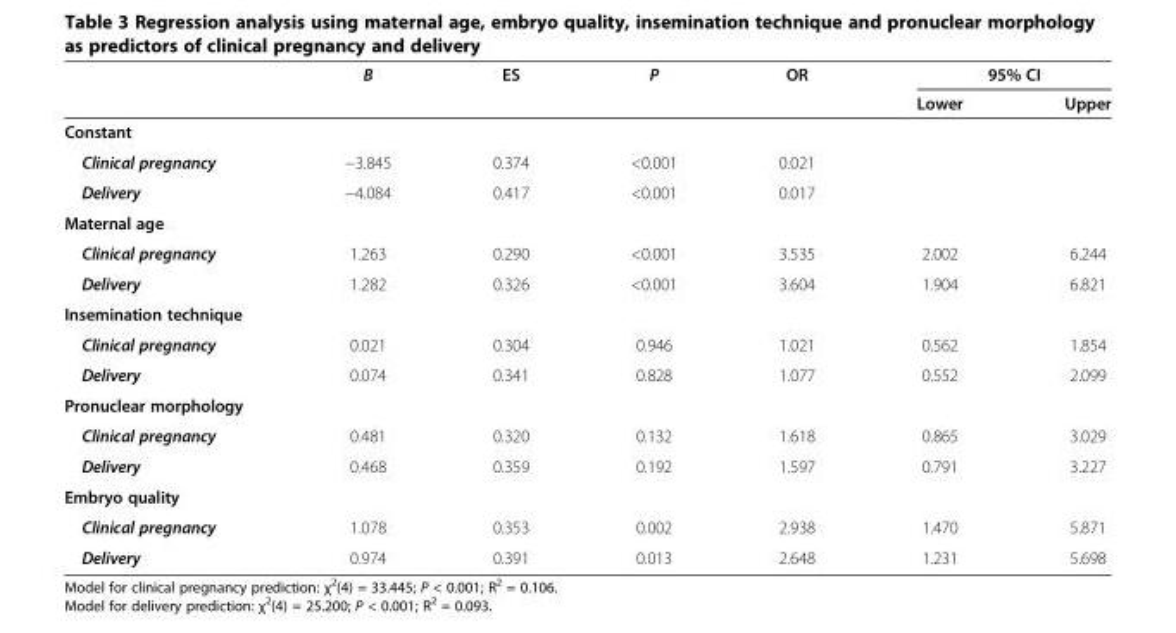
<table><thead><tr><td rowspan="2"></td><td rowspan="2">B</td><td rowspan="2">ES</td><td rowspan="2">P</td><td rowspan="2">OR</td><td colspan="2">95% CI</td></tr><tr><td>Lower</td><td>Upper</td></tr></thead><tbody><tr><td colspan="7">Constant</td></tr><tr><td>Clinical pregnancy</td><td>−3.845</td><td>0.374</td><td>&lt;0.001</td><td>0.021</td><td></td><td></td></tr><tr><td>Delivery</td><td>−4.084</td><td>0.417</td><td>&lt;0.001</td><td>0.017</td><td></td><td></td></tr><tr><td colspan="7">Maternal age</td></tr><tr><td>Clinical pregnancy</td><td>1.263</td><td>0.290</td><td>&lt;0.001</td><td>3.535</td><td>2.002</td><td>6.244</td></tr><tr><td>Delivery</td><td>1.282</td><td>0.326</td><td>&lt;0.001</td><td>3.604</td><td>1.904</td><td>6.821</td></tr><tr><td colspan="7">Insemination technique</td></tr><tr><td>Clinical pregnancy</td><td>0.021</td><td>0.304</td><td>0.946</td><td>1.021</td><td>0.562</td><td>1.854</td></tr><tr><td>Delivery</td><td>0.074</td><td>0.341</td><td>0.828</td><td>1.077</td><td>0.552</td><td>2.099</td></tr><tr><td colspan="7">Pronuclear morphology</td></tr><tr><td>Clinical pregnancy</td><td>0.481</td><td>0.320</td><td>0.132</td><td>1.618</td><td>0.865</td><td>3.029</td></tr><tr><td>Delivery</td><td>0.468</td><td>0.359</td><td>0.192</td><td>1.597</td><td>0.791</td><td>3.227</td></tr><tr><td colspan="7">Embryo quality</td></tr><tr><td>Clinical pregnancy</td><td>1.078</td><td>0.353</td><td>0.002</td><td>2.938</td><td>1.470</td><td>5.871</td></tr><tr><td>Delivery</td><td>0.974</td><td>0.391</td><td>0.013</td><td>2.648</td><td>1.231</td><td>5.698</td></tr></tbody></table>